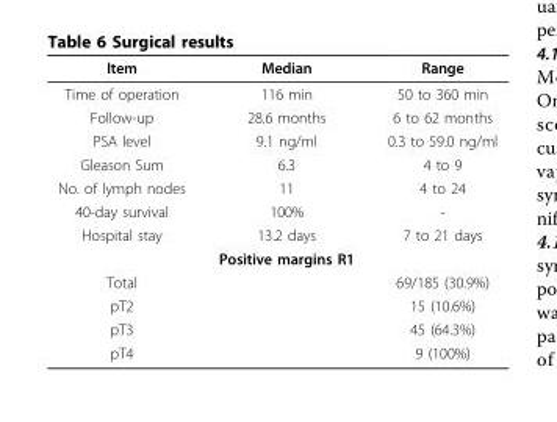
<table><thead><tr><td>Item</td><td>Median</td><td>Range</td></tr></thead><tbody><tr><td>Time of operation</td><td>116 min</td><td>50 to 360 min</td></tr><tr><td>Follow-up</td><td>28.6 months</td><td>6 to 62 months</td></tr><tr><td>PSA level</td><td>9.1 ng/ml</td><td>0.3 to 59.0 ng/ml</td></tr><tr><td>Gleason Sum</td><td>6.3</td><td>4 to 9</td></tr><tr><td>No. of lymph nodes</td><td>11</td><td>4 to 24</td></tr><tr><td>40-day survival</td><td>100%</td><td>-</td></tr><tr><td rowspan="2">Hospital stay</td><td>13.2 days</td><td>7 to 21 days</td></tr><tr><td>Positive margins R1</td><td></td></tr><tr><td>Total</td><td></td><td>69/185 (30.9%)</td></tr><tr><td>pT2</td><td></td><td>15 (10.6%)</td></tr><tr><td>pT3</td><td></td><td>45 (64.3%)</td></tr><tr><td>pT4</td><td></td><td>9 (100%)</td></tr></tbody></table>